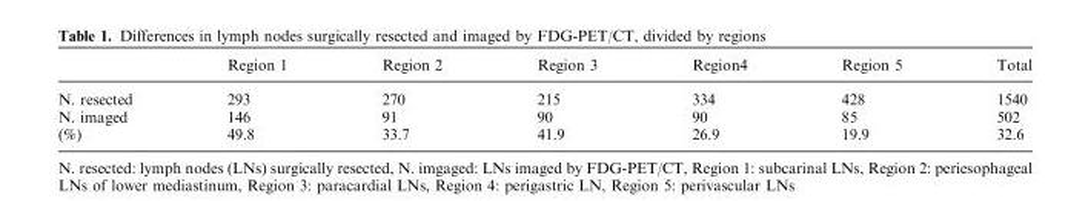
<table><thead><tr><td></td><td>Region 1</td><td>Region 2</td><td>Region 3</td><td>Region4</td><td>Region 5</td><td>Total</td></tr></thead><tbody><tr><td>N. resected</td><td>293</td><td>270</td><td>215</td><td>334</td><td>428</td><td>1540</td></tr><tr><td>N. imaged</td><td>146</td><td>91</td><td>90</td><td>90</td><td>85</td><td>502</td></tr><tr><td>(%)</td><td>49.8</td><td>33.7</td><td>41.9</td><td>26.9</td><td>19.9</td><td>32.6</td></tr></tbody></table>